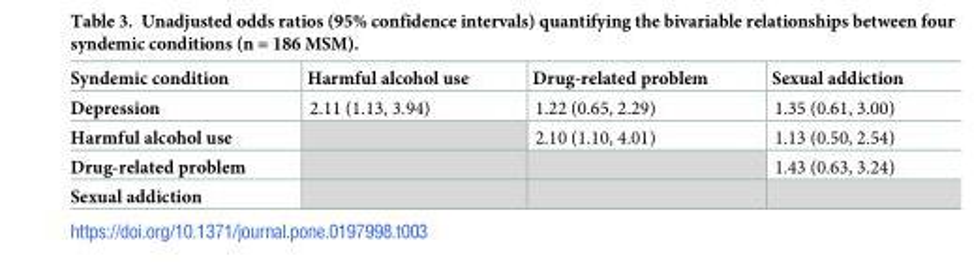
<table><thead><tr><td>Syndemic condition</td><td>Harmful alcohol use</td><td>Drug-related problem</td><td>Sexual addiction</td></tr></thead><tbody><tr><td>Depression</td><td>2.11 (1.13, 3.94)</td><td>1.22 (0.65, 2.29)</td><td>1.35 (0.61, 3.00)</td></tr><tr><td>Harmful alcohol use</td><td></td><td>2.10 (1.10, 4.01)</td><td>1.13 (0.50, 2.54)</td></tr><tr><td>Drug-related problem</td><td></td><td></td><td>1.43 (0.63, 3.24)</td></tr><tr><td>Sexual addiction</td><td></td><td></td><td></td></tr></tbody></table>